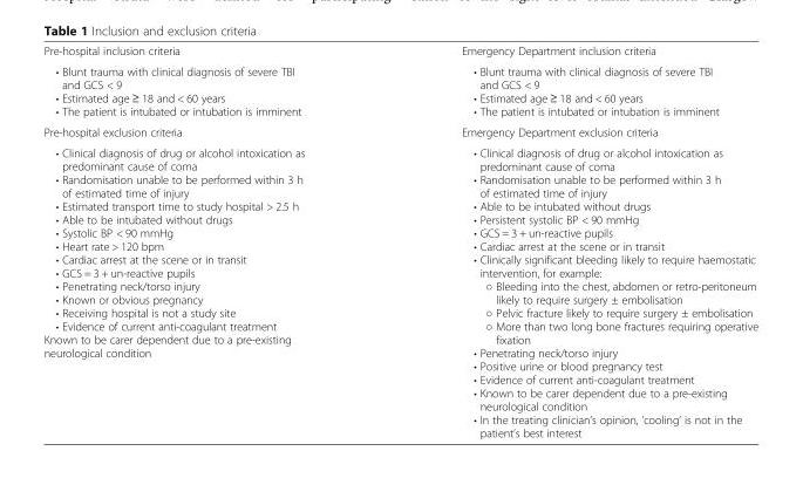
<table><tbody><tr><td>Pre-hospital inclusion criteria</td><td>Emergency Department inclusion criteria</td></tr><tr><td>• Blunt trauma with clinical diagnosis of severe TBI and GCS &lt; 9 • Estimated age ≥ 18 and &lt; 60 years • The patient is intubated or intubation is imminent</td><td>• Blunt trauma with clinical diagnosis of severe TBI and GCS &lt; 9 • Estimated age ≥ 18 and &lt; 60 years • The patient is intubated or intubation is imminent</td></tr><tr><td>Pre-hospital exclusion criteria</td><td>Emergency Department exclusion criteria</td></tr><tr><td>• Clinical diagnosis of drug or alcohol intoxication as predominant cause of coma • Randomisation unable to be performed within 3 h of estimated time of injury • Estimated transport time to study hospital &gt; 2.5 h • Able to be intubated without drugs • Systolic BP &lt; 90 mmHg • Heart rate &gt; 120 bpm • Cardiac arrest at the scene or in transit • GCS = 3 + un-reactive pupils • Penetrating neck/torso injury • Known or obvious pregnancy • Receiving hospital is not a study site • Evidence of current anti-coagulant treatment Known to be carer dependent due to a pre-existing neurological condition</td><td>• Clinical diagnosis of drug or alcohol intoxication as predominant cause of coma • Randomisation unable to be performed within 3 h of estimated time of injury • Able to be intubated without drugs • Persistent systolic BP &lt; 90 mmHg • GCS = 3 + un-reactive pupils • Cardiac arrest at the scene or in transit • Clinically significant bleeding likely to require haemostatic intervention, for example: ○ Bleeding into the chest, abdomen or retro-peritoneum likely to require surgery ± embolisation ○ Pelvic fracture likely to require surgery ± embolisation ○ More than two long bone fractures requiring operative fixation • Penetrating neck/torso injury • Positive urine or blood pregnancy test • Evidence of current anti-coagulant treatment • Known to be carer dependent due to a pre-existing neurological condition • In the treating clinician’s opinion, ‘cooling’ is not in the patient’s best interest</td></tr></tbody></table>